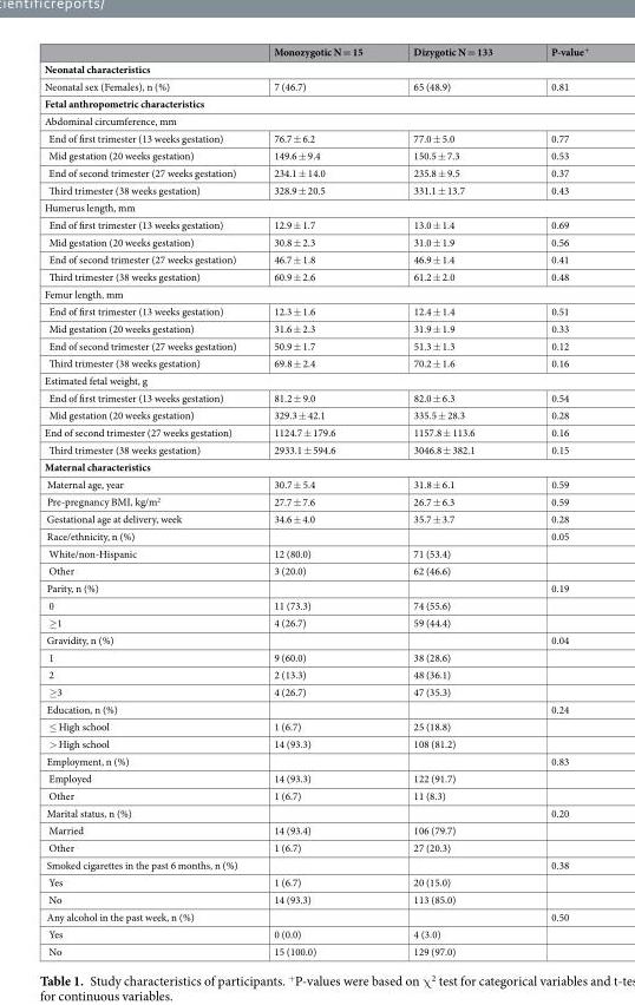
<table><thead><tr><td></td><td>Monozygotic N = 15</td><td>Dizygotic N = 133</td><td>P-value<sup>+</sup></td></tr></thead><tbody><tr><td colspan="4">Neonatal characteristics</td></tr><tr><td>Neonatal sex (Females), n (%)</td><td>7 (46.7)</td><td>65 (48.9)</td><td>0.81</td></tr><tr><td colspan="4">Fetal anthropometric characteristics</td></tr><tr><td colspan="4">Abdominal circumference, mm</td></tr><tr><td>End of first trimester (13 weeks gestation)</td><td>76.7 ± 6.2</td><td>77.0 ± 5.0</td><td>0.77</td></tr><tr><td>Mid gestation (20 weeks gestation)</td><td>149.6 ± 9.4</td><td>150.5 ± 7.3</td><td>0.53</td></tr><tr><td>End of second trimester (27 weeks gestation)</td><td>234.1 ± 14.0</td><td>235.8 ± 9.5</td><td>0.37</td></tr><tr><td>Third trimester (38 weeks gestation)</td><td>328.9 ± 20.5</td><td>331.1 ± 13.7</td><td>0.43</td></tr><tr><td colspan="4">Humerus length, mm</td></tr><tr><td>End of first trimester (13 weeks gestation)</td><td>12.9 ± 1.7</td><td>13.0 ± 1.4</td><td>0.69</td></tr><tr><td>Mid gestation (20 weeks gestation)</td><td>30.8 ± 2.3</td><td>31.0 ± 1.9</td><td>0.56</td></tr><tr><td>End of second trimester (27 weeks gestation)</td><td>46.7 ± 1.8</td><td>46.9 ± 1.4</td><td>0.41</td></tr><tr><td>Third trimester (38 weeks gestation)</td><td>60.9 ± 2.6</td><td>61.2 ± 2.0</td><td>0.48</td></tr><tr><td colspan="4">Femur length, mm</td></tr><tr><td>End of first trimester (13 weeks gestation)</td><td>12.3 ± 1.6</td><td>12.4 ± 1.4</td><td>0.51</td></tr><tr><td>Mid gestation (20 weeks gestation)</td><td>31.6 ± 2.3</td><td>31.9 ± 1.9</td><td>0.33</td></tr><tr><td>End of second trimester (27 weeks gestation)</td><td>50.9 ± 1.7</td><td>51.3 ± 1.3</td><td>0.12</td></tr><tr><td>Third trimester (38 weeks gestation)</td><td>69.8 ± 2.4</td><td>70.2 ± 1.6</td><td>0.16</td></tr><tr><td colspan="4">Estimated fetal weight, g</td></tr><tr><td>End of first trimester (13 weeks gestation)</td><td>81.2 ± 9.0</td><td>82.0 ± 6.3</td><td>0.54</td></tr><tr><td>Mid gestation (20 weeks gestation)</td><td>329.3 ± 42.1</td><td>335.5 ± 28.3</td><td>0.28</td></tr><tr><td>End of second trimester (27 weeks gestation)</td><td>1124.7 ± 179.6</td><td>1157.8 ± 113.6</td><td>0.16</td></tr><tr><td>Third trimester (38 weeks gestation)</td><td>2933.1 ± 594.6</td><td>3046.8 ± 382.1</td><td>0.15</td></tr><tr><td colspan="4">Maternal characteristics</td></tr><tr><td>Maternal age, year</td><td>30.7 ± 5.4</td><td>31.8 ± 6.1</td><td>0.59</td></tr><tr><td>Pre-pregnancy BMI, kg/m<sup>2</sup></td><td>27.7 ± 7.6</td><td>26.7 ± 6.3</td><td>0.59</td></tr><tr><td>Gestational age at delivery, week</td><td>34.6 ± 4.0</td><td>35.7 ± 3.7</td><td>0.28</td></tr><tr><td>Race/ethnicity, n (%)</td><td></td><td></td><td>0.05</td></tr><tr><td>White/non-Hispanic</td><td>12 (80.0)</td><td>71 (53.4)</td><td></td></tr><tr><td>Other</td><td>3 (20.0)</td><td>62 (46.6)</td><td></td></tr><tr><td>Parity, n (%)</td><td></td><td></td><td>0.19</td></tr><tr><td>0</td><td>11 (73.3)</td><td>74 (55.6)</td><td></td></tr><tr><td>≥1</td><td>4 (26.7)</td><td>59 (44.4)</td><td></td></tr><tr><td>Gravidity, n (%)</td><td></td><td></td><td>0.04</td></tr><tr><td>1</td><td>9 (60.0)</td><td>38 (28.6)</td><td></td></tr><tr><td>2</td><td>2 (13.3)</td><td>48 (36.1)</td><td></td></tr><tr><td>≥3</td><td>4 (26.7)</td><td>47 (35.3)</td><td></td></tr><tr><td>Education, n (%)</td><td></td><td></td><td>0.24</td></tr><tr><td>≤ High school</td><td>1 (6.7)</td><td>25 (18.8)</td><td></td></tr><tr><td>&gt; High school</td><td>14 (93.3)</td><td>108 (81.2)</td><td></td></tr><tr><td>Employment, n (%)</td><td></td><td></td><td>0.83</td></tr><tr><td>Employed</td><td>14 (93.3)</td><td>122 (91.7)</td><td></td></tr><tr><td>Other</td><td>1 (6.7)</td><td>11 (8.3)</td><td></td></tr><tr><td>Marital status, n (%)</td><td></td><td></td><td>0.20</td></tr><tr><td>Married</td><td>14 (93.4)</td><td>106 (79.7)</td><td></td></tr><tr><td>Other</td><td>1 (6.7)</td><td>27 (20.3)</td><td></td></tr><tr><td>Smoked cigarettes in the past 6 months, n (%)</td><td></td><td></td><td>0.38</td></tr><tr><td>Yes</td><td>1 (6.7)</td><td>20 (15.0)</td><td></td></tr><tr><td>No</td><td>14 (93.3)</td><td>113 (85.0)</td><td></td></tr><tr><td>Any alcohol in the past week, n (%)</td><td></td><td></td><td>0.50</td></tr><tr><td>Yes</td><td>0 (0.0)</td><td>4 (3.0)</td><td></td></tr><tr><td>No</td><td>15 (100.0)</td><td>129 (97.0)</td><td></td></tr></tbody></table>